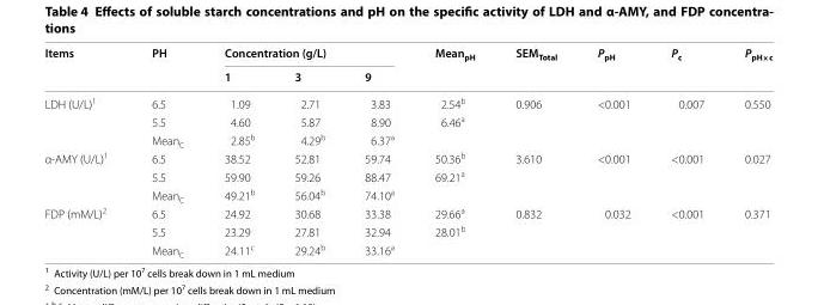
<table><thead><tr><td rowspan="2">Items</td><td rowspan="2">PH</td><td colspan="3">Concentration (g/L)</td><td rowspan="2">Mean<sub>pH</sub></td><td rowspan="2">SEM<sub>Total</sub></td><td rowspan="2">P<sub>pH</sub></td><td rowspan="2">P<sub>c</sub></td><td rowspan="2">P<sub>pH×c</sub></td></tr><tr><td>1</td><td>3</td><td>9</td></tr></thead><tbody><tr><td rowspan="3">LDH (U/L)<sup>1</sup></td><td>6.5</td><td>1.09</td><td>2.71</td><td>3.83</td><td>2.54<sup>b</sup></td><td rowspan="3">0.906</td><td rowspan="3">&lt;0.001</td><td rowspan="3">0.007</td><td rowspan="3">0.550</td></tr><tr><td>5.5</td><td>4.60</td><td>5.87</td><td>8.90</td><td>6.46<sup>a</sup></td></tr><tr><td>Mean<sub>C</sub></td><td>2.85<sup>b</sup></td><td>4.29<sup>b</sup></td><td>6.37<sup>a</sup></td><td></td></tr><tr><td rowspan="3">α-AMY (U/L)<sup>1</sup></td><td>6.5</td><td>38.52</td><td>52.81</td><td>59.74</td><td>50.36<sup>b</sup></td><td rowspan="3">3.610</td><td rowspan="3">&lt;0.001</td><td rowspan="3">&lt;0.001</td><td rowspan="3">0.027</td></tr><tr><td>5.5</td><td>59.90</td><td>59.26</td><td>88.47</td><td>69.21<sup>a</sup></td></tr><tr><td>Mean<sub>C</sub></td><td>49.21<sup>b</sup></td><td>56.04<sup>b</sup></td><td>74.10<sup>a</sup></td><td></td></tr><tr><td rowspan="3">FDP (mM/L)<sup>2</sup></td><td>6.5</td><td>24.92</td><td>30.68</td><td>33.38</td><td>29.66<sup>a</sup></td><td rowspan="3">0.832</td><td rowspan="3">0.032</td><td rowspan="3">&lt;0.001</td><td rowspan="3">0.371</td></tr><tr><td>5.5</td><td>23.29</td><td>27.81</td><td>32.94</td><td>28.01<sup>b</sup></td></tr><tr><td>Mean<sub>C</sub></td><td>24.11<sup>c</sup></td><td>29.24<sup>b</sup></td><td>33.16<sup>a</sup></td><td></td></tr></tbody></table>